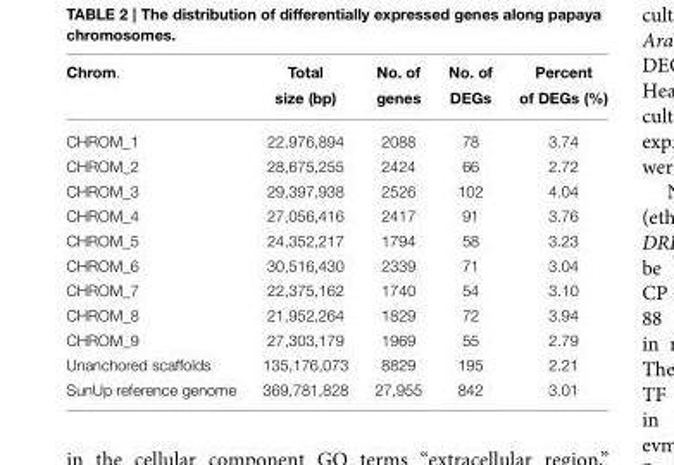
<table><thead><tr><td>Chrom.</td><td>Total size (bp)</td><td>No. of genes</td><td>No. of DEGs</td><td>Percent of DEGs (%)</td></tr></thead><tbody><tr><td>CHROM_1</td><td>22,976,894</td><td>2088</td><td>78</td><td>3.74</td></tr><tr><td>CHROM_2</td><td>28,675,255</td><td>2424</td><td>66</td><td>2.72</td></tr><tr><td>CHROM_3</td><td>29,397,938</td><td>2526</td><td>102</td><td>4.04</td></tr><tr><td>CHROM_4</td><td>27,056,416</td><td>2417</td><td>91</td><td>3.76</td></tr><tr><td>CHROM_5</td><td>24,352,217</td><td>1794</td><td>58</td><td>3.23</td></tr><tr><td>CHROM_6</td><td>30,516,430</td><td>2339</td><td>71</td><td>3.04</td></tr><tr><td>CHROM_7</td><td>22,375,162</td><td>1740</td><td>54</td><td>3.10</td></tr><tr><td>CHROM_8</td><td>21,952,264</td><td>1829</td><td>72</td><td>3.94</td></tr><tr><td>CHROM_9</td><td>27,303,179</td><td>1969</td><td>55</td><td>2.79</td></tr><tr><td>Unanchored scaffolds</td><td>135,176,073</td><td>8829</td><td>195</td><td>2.21</td></tr><tr><td>SunUp reference genome</td><td>369,781,828</td><td>27,955</td><td>842</td><td>3.01</td></tr></tbody></table>